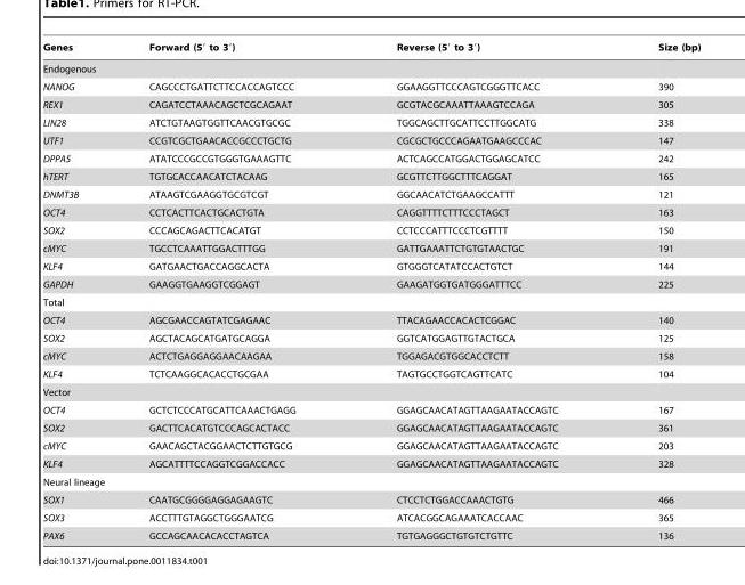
<table><thead><tr><td>Genes</td><td>Forward (5′ to 3′)</td><td>Reverse (5′ to 3′)</td><td>Size (bp)</td></tr></thead><tbody><tr><td colspan="4">Endogenous</td></tr><tr><td>NANOG</td><td>CAGCCCTGATTCTTCCACCAGTCCC</td><td>GGAAGGTTCCCAGTCGGGTTCACC</td><td>390</td></tr><tr><td>REX1</td><td>CAGATCCTAAACAGCTCGCAGAAT</td><td>GCGTACGCAAATTAAAGTCCAGA</td><td>305</td></tr><tr><td>LIN28</td><td>ATCTGTAAGTGGTTCAACGTGCGC</td><td>TGGCAGCTTGCATTCCTTGGCATG</td><td>338</td></tr><tr><td>UTF1</td><td>CCGTCGCTGAACACCGCCCTGCTG</td><td>CGCGCTGCCCAGAATGAAGCCCAC</td><td>147</td></tr><tr><td>DPPA5</td><td>ATATCCCGCCGTGGGTGAAAGTTC</td><td>ACTCAGCCATGGACTGGAGCATCC</td><td>242</td></tr><tr><td>hTERT</td><td>TGTGCACCAACATCTACAAG</td><td>GCGTTCTTGGCTTTCAGGAT</td><td>165</td></tr><tr><td>DNMT3B</td><td>ATAAGTCGAAGGTGCGTCGT</td><td>GGCAACATCTGAAGCCATTT</td><td>121</td></tr><tr><td>OCT4</td><td>CCTCACTTCACTGCACTGTA</td><td>CAGGTTTTCTTTCCCTAGCT</td><td>163</td></tr><tr><td>SOX2</td><td>CCCAGCAGACTTCACATGT</td><td>CCTCCCATTTCCCTCGTTTT</td><td>150</td></tr><tr><td>cMYC</td><td>TGCCTCAAATTGGACTTTGG</td><td>GATTGAAATTCTGTGTAACTGC</td><td>191</td></tr><tr><td>KLF4</td><td>GATGAACTGACCAGGCACTA</td><td>GTGGGTCATATCCACTGTCT</td><td>144</td></tr><tr><td>GAPDH</td><td>GAAGGTGAAGGTCGGAGT</td><td>GAAGATGGTGATGGGATTTCC</td><td>225</td></tr><tr><td colspan="4">Total</td></tr><tr><td>OCT4</td><td>AGCGAACCAGTATCGAGAAC</td><td>TTACAGAACCACACTCGGAC</td><td>140</td></tr><tr><td>SOX2</td><td>AGCTACAGCATGATGCAGGA</td><td>GGTCATGGAGTTGTACTGCA</td><td>125</td></tr><tr><td>cMYC</td><td>ACTCTGAGGAGGAACAAGAA</td><td>TGGAGACGTGGCACCTCTT</td><td>158</td></tr><tr><td>KLF4</td><td>TCTCAAGGCACACCTGCGAA</td><td>TAGTGCCTGGTCAGTTCATC</td><td>104</td></tr><tr><td colspan="4">Vector</td></tr><tr><td>OCT4</td><td>GCTCTCCCATGCATTCAAACTGAGG</td><td>GGAGCAACATAGTTAAGAATACCAGTC</td><td>167</td></tr><tr><td>SOX2</td><td>GACTTCACATGTCCCAGCACTACC</td><td>GGAGCAACATAGTTAAGAATACCAGTC</td><td>361</td></tr><tr><td>cMYC</td><td>GAACAGCTACGGAACTCTTGTGCG</td><td>GGAGCAACATAGTTAAGAATACCAGTC</td><td>203</td></tr><tr><td>KLF4</td><td>AGCATTTTCCAGGTCGGACCACC</td><td>GGAGCAACATAGTTAAGAATACCAGTC</td><td>328</td></tr><tr><td colspan="4">Neural lineage</td></tr><tr><td>SOX1</td><td>CAATGCGGGGAGGAGAAGTC</td><td>CTCCTCTGGACCAAACTGTG</td><td>466</td></tr><tr><td>SOX3</td><td>ACCTTTGTAGGCTGGGAATCG</td><td>ATCACGGCAGAAATCACCAAC</td><td>365</td></tr><tr><td>PAX6</td><td>GCCAGCAACACACCTAGTCA</td><td>TGTGAGGGCTGTGTCTGTTC</td><td>136</td></tr></tbody></table>